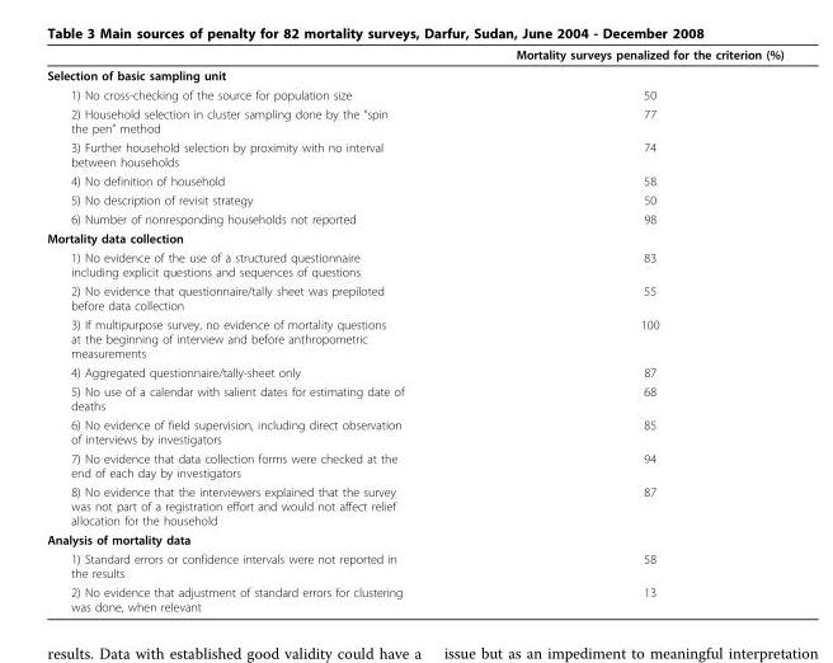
<table><thead><tr><td></td><td>Mortality surveys penalized for the criterion (%)</td></tr></thead><tbody><tr><td colspan="2">Selection of basic sampling unit</td></tr><tr><td>1) No cross-checking of the source for population size</td><td>50</td></tr><tr><td>2) Household selection in cluster sampling done by the “spin the pen” method</td><td>77</td></tr><tr><td>3) Further household selection by proximity with no interval between households</td><td>74</td></tr><tr><td>4) No definition of household</td><td>58</td></tr><tr><td>5) No description of revisit strategy</td><td>50</td></tr><tr><td>6) Number of nonresponding households not reported</td><td>98</td></tr><tr><td colspan="2">Mortality data collection</td></tr><tr><td>1) No evidence of the use of a structured questionnaire including explicit questions and sequences of questions</td><td>83</td></tr><tr><td>2) No evidence that questionnaire/tally sheet was prepiloted before data collection</td><td>55</td></tr><tr><td>3) If multipurpose survey, no evidence of mortality questions at the beginning of interview and before anthropometric measurements</td><td>100</td></tr><tr><td>4) Aggregated questionnaire/tally-sheet only</td><td>87</td></tr><tr><td>5) No use of a calendar with salient dates for estimating date of deaths</td><td>68</td></tr><tr><td>6) No evidence of field supervision, including direct observation of interviews by investigators</td><td>85</td></tr><tr><td>7) No evidence that data collection forms were checked at the end of each day by investigators</td><td>94</td></tr><tr><td>8) No evidence that the interviewers explained that the survey was not part of a registration effort and would not affect relief allocation for the household</td><td>87</td></tr><tr><td colspan="2">Analysis of mortality data</td></tr><tr><td>1) Standard errors or confidence intervals were not reported in the results</td><td>58</td></tr><tr><td>2) No evidence that adjustment of standard errors for clustering was done, when relevant</td><td>13</td></tr></tbody></table>